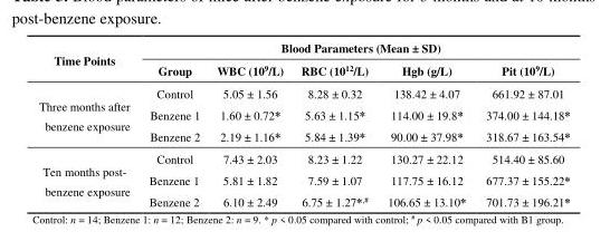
<table><thead><tr><td rowspan="2">Time Points</td><td colspan="5">Blood Parameters (Mean ± SD)</td></tr><tr><td>Group</td><td>WBC (10<sup>9</sup>/L)</td><td>RBC (10<sup>12</sup>/L)</td><td>Hgb (g/L)</td><td>Pit (10<sup>9</sup>/L)</td></tr></thead><tbody><tr><td rowspan="3">Three months after benzene exposure</td><td>Control</td><td>5.05 ± 1.56</td><td>8.28 ± 0.32</td><td>138.42 ± 4.07</td><td>661.92 ± 87.01</td></tr><tr><td>Benzene 1</td><td>1.60 ± 0.72*</td><td>5.63 ± 1.15*</td><td>114.00 ± 19.8*</td><td>374.00 ± 144.18*</td></tr><tr><td>Benzene 2</td><td>2.19 ± 1.16*</td><td>5.84 ± 1.39*</td><td>90.00 ± 37.98*</td><td>318.67 ± 163.54*</td></tr><tr><td rowspan="3">Ten months post- benzene exposure</td><td>Control</td><td>7.43 ± 2.03</td><td>8.23 ± 1.22</td><td>130.27 ± 22.12</td><td>514.40 ± 85.60</td></tr><tr><td>Benzene 1</td><td>5.81 ± 1.82</td><td>7.59 ± 1.07</td><td>117.75 ± 16.12</td><td>677.37 ± 155.22*</td></tr><tr><td>Benzene 2</td><td>6.10 ± 2.49</td><td>6.75 ± 1.27*<sup>,#</sup></td><td>106.65 ± 13.10*</td><td>701.73 ± 196.21*</td></tr></tbody></table>